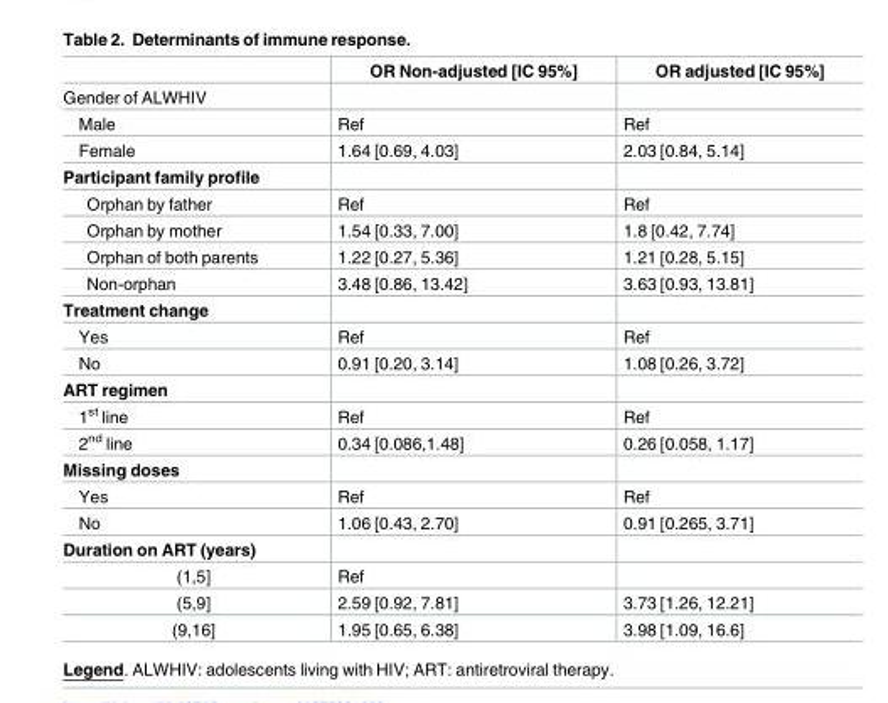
<table><thead><tr><td></td><td>OR Non-adjusted [IC 95%]</td><td>OR adjusted [IC 95%]</td></tr></thead><tbody><tr><td colspan="3">Gender of ALWHIV</td></tr><tr><td>Male</td><td>Ref</td><td>Ref</td></tr><tr><td>Female</td><td>1.64 [0.69, 4.03]</td><td>2.03 [0.84, 5.14]</td></tr><tr><td colspan="3">Participant family profile</td></tr><tr><td>Orphan by father</td><td>Ref</td><td>Ref</td></tr><tr><td>Orphan by mother</td><td>1.54 [0.33, 7.00]</td><td>1.8 [0.42, 7.74]</td></tr><tr><td>Orphan of both parents</td><td>1.22 [0.27, 5.36]</td><td>1.21 [0.28, 5.15]</td></tr><tr><td>Non-orphan</td><td>3.48 [0.86, 13.42]</td><td>3.63 [0.93, 13.81]</td></tr><tr><td colspan="3">Treatment change</td></tr><tr><td>Yes</td><td>Ref</td><td>Ref</td></tr><tr><td>No</td><td>0.91 [0.20, 3.14]</td><td>1.08 [0.26, 3.72]</td></tr><tr><td colspan="3">ART regimen</td></tr><tr><td>1<sup>st</sup> line</td><td>Ref</td><td>Ref</td></tr><tr><td>2<sup>nd</sup> line</td><td>0.34 [0.086,1.48]</td><td>0.26 [0.058, 1.17]</td></tr><tr><td colspan="3">Missing doses</td></tr><tr><td>Yes</td><td>Ref</td><td>Ref</td></tr><tr><td>No</td><td>1.06 [0.43, 2.70]</td><td>0.91 [0.265, 3.71]</td></tr><tr><td colspan="3">Duration on ART (years)</td></tr><tr><td>(1,5]</td><td>Ref</td><td></td></tr><tr><td>(5,9]</td><td>2.59 [0.92, 7.81]</td><td>3.73 [1.26, 12.21]</td></tr><tr><td>(9,16]</td><td>1.95 [0.65, 6.38]</td><td>3.98 [1.09, 16.6]</td></tr></tbody></table>